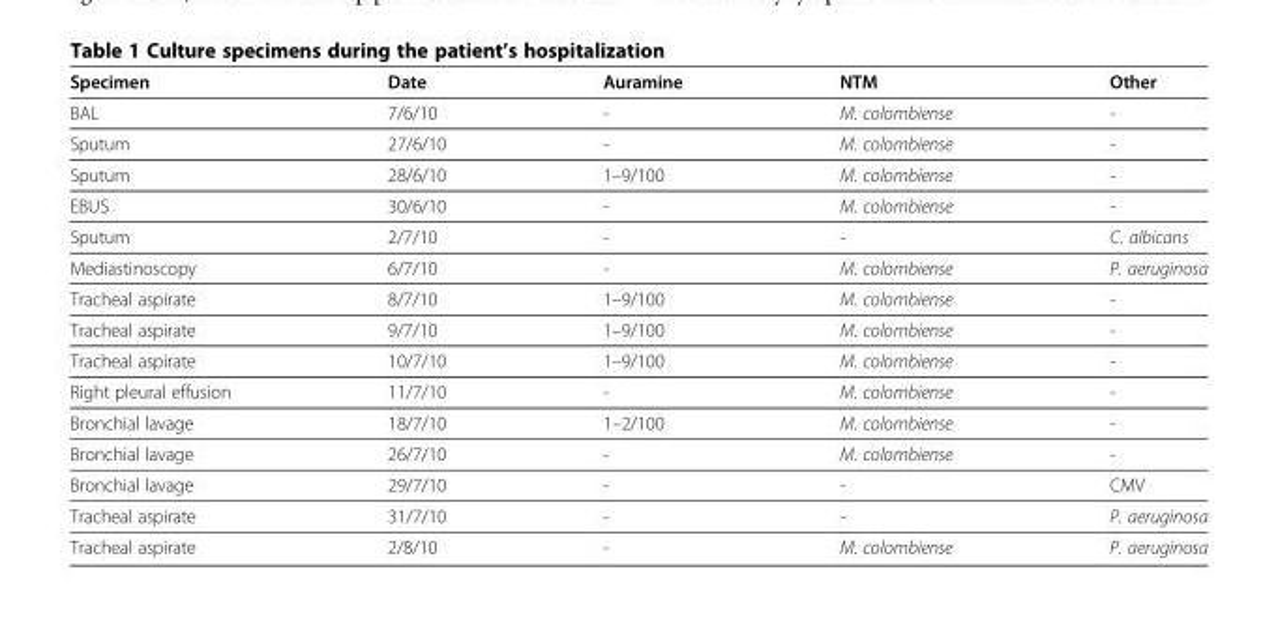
<table><thead><tr><td>Specimen</td><td>Date</td><td>Auramine</td><td>NTM</td><td>Other</td></tr></thead><tbody><tr><td>BAL</td><td>7/6/10</td><td>-</td><td>M. colombiense</td><td>-</td></tr><tr><td>Sputum</td><td>27/6/10</td><td>-</td><td>M. colombiense</td><td>-</td></tr><tr><td>Sputum</td><td>28/6/10</td><td>1–9/100</td><td>M. colombiense</td><td>-</td></tr><tr><td>EBUS</td><td>30/6/10</td><td>-</td><td>M. colombiense</td><td>-</td></tr><tr><td>Sputum</td><td>2/7/10</td><td>-</td><td>-</td><td>C. albicans</td></tr><tr><td>Mediastinoscopy</td><td>6/7/10</td><td>-</td><td>M. colombiense</td><td>P. aeruginosa</td></tr><tr><td>Tracheal aspirate</td><td>8/7/10</td><td>1–9/100</td><td>M. colombiense</td><td>-</td></tr><tr><td>Tracheal aspirate</td><td>9/7/10</td><td>1–9/100</td><td>M. colombiense</td><td>-</td></tr><tr><td>Tracheal aspirate</td><td>10/7/10</td><td>1–9/100</td><td>M. colombiense</td><td>-</td></tr><tr><td>Right pleural effusion</td><td>11/7/10</td><td>-</td><td>M. colombiense</td><td>-</td></tr><tr><td>Bronchial lavage</td><td>18/7/10</td><td>1–2/100</td><td>M. colombiense</td><td>-</td></tr><tr><td>Bronchial lavage</td><td>26/7/10</td><td>-</td><td>M. colombiense</td><td>-</td></tr><tr><td>Bronchial lavage</td><td>29/7/10</td><td>-</td><td>-</td><td>CMV</td></tr><tr><td>Tracheal aspirate</td><td>31/7/10</td><td>-</td><td>-</td><td>P. aeruginosa</td></tr><tr><td>Tracheal aspirate</td><td>2/8/10</td><td>-</td><td>M. colombiense</td><td>P. aeruginosa</td></tr></tbody></table>